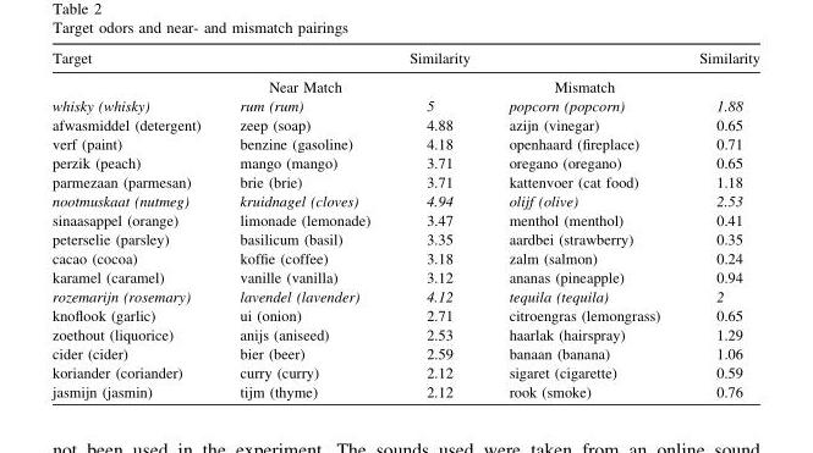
<table><thead><tr><td>Target</td><td></td><td>Similarity</td><td></td><td>Similarity</td></tr></thead><tbody><tr><td></td><td>Near Match</td><td></td><td>Mismatch</td><td></td></tr><tr><td>whisky (whisky)</td><td>rum (rum)</td><td>5</td><td>popcorn (popcorn)</td><td>1.88</td></tr><tr><td>afwasmiddel (detergent)</td><td>zeep (soap)</td><td>4.88</td><td>azijn (vinegar)</td><td>0.65</td></tr><tr><td>verf (paint)</td><td>benzine (gasoline)</td><td>4.18</td><td>openhaard (fireplace)</td><td>0.71</td></tr><tr><td>perzik (peach)</td><td>mango (mango)</td><td>3.71</td><td>oregano (oregano)</td><td>0.65</td></tr><tr><td>parmezaan (parmesan)</td><td>brie (brie)</td><td>3.71</td><td>kattenvoer (cat food)</td><td>1.18</td></tr><tr><td>nootmuskaat (nutmeg)</td><td>kruidnagel (cloves)</td><td>4.94</td><td>olijf (olive)</td><td>2.53</td></tr><tr><td>sinaasappel (orange)</td><td>limonade (lemonade)</td><td>3.47</td><td>menthol (menthol)</td><td>0.41</td></tr><tr><td>peterselie (parsley)</td><td>basilicum (basil)</td><td>3.35</td><td>aardbei (strawberry)</td><td>0.35</td></tr><tr><td>cacao (cocoa)</td><td>koffie (coffee)</td><td>3.18</td><td>zalm (salmon)</td><td>0.24</td></tr><tr><td>karamel (caramel)</td><td>vanille (vanilla)</td><td>3.12</td><td>ananas (pineapple)</td><td>0.94</td></tr><tr><td>rozemarijn (rosemary)</td><td>lavendel (lavender)</td><td>4.12</td><td>tequila (tequila)</td><td>2</td></tr><tr><td>knoflook (garlic)</td><td>ui (onion)</td><td>2.71</td><td>citroengras (lemongrass)</td><td>0.65</td></tr><tr><td>zoethout (liquorice)</td><td>anijs (aniseed)</td><td>2.53</td><td>haarlak (hairspray)</td><td>1.29</td></tr><tr><td>cider (cider)</td><td>bier (beer)</td><td>2.59</td><td>banaan (banana)</td><td>1.06</td></tr><tr><td>koriander (coriander)</td><td>curry (curry)</td><td>2.12</td><td>sigaret (cigarette)</td><td>0.59</td></tr><tr><td>jasmijn (jasmin)</td><td>tijm (thyme)</td><td>2.12</td><td>rook (smoke)</td><td>0.76</td></tr></tbody></table>